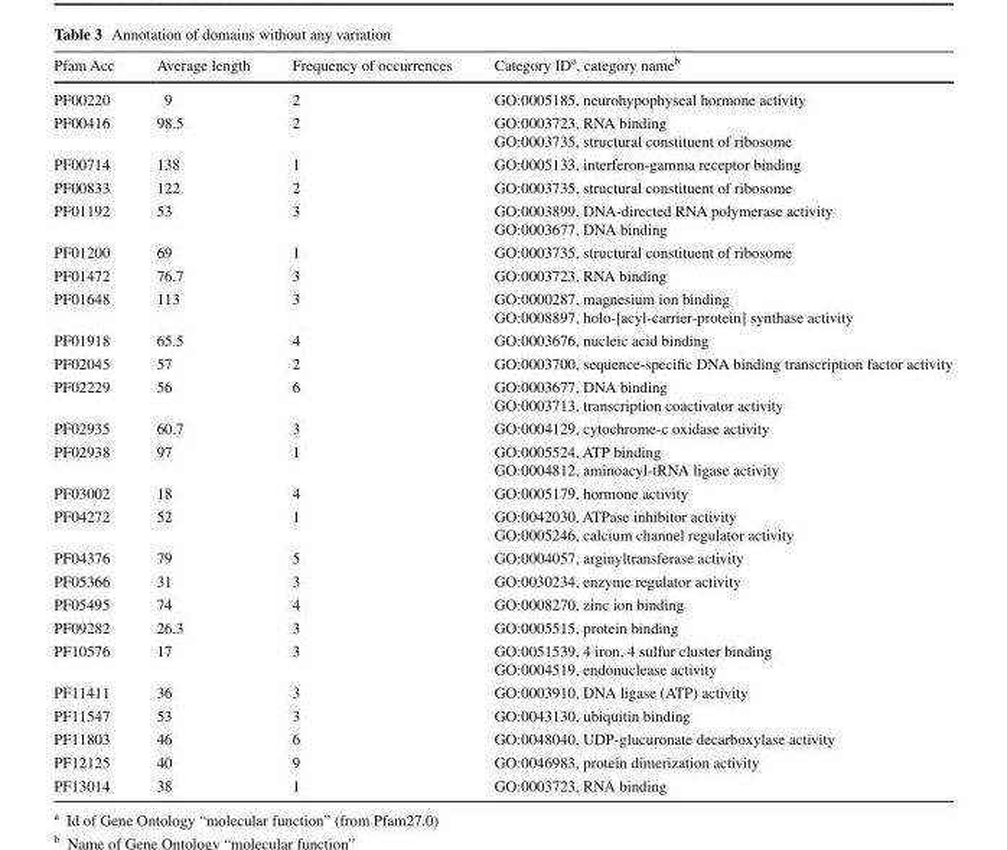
<table><thead><tr><td>Pfam Acc</td><td>Average length</td><td>Frequency of occurrences</td><td>Category ID<sup>a</sup>, category name<sup>b</sup></td></tr></thead><tbody><tr><td>PF00220</td><td>9</td><td>2</td><td>GO:0005185, neurohypophyseal hormone activity</td></tr><tr><td>PF00416</td><td>98.5</td><td>2</td><td>GO:0003723, RNA binding GO:0003735, structural constituent of ribosome</td></tr><tr><td>PF00714</td><td>138</td><td>1</td><td>GO:0005133, interferon-gamma receptor binding</td></tr><tr><td>PF00833</td><td>122</td><td>2</td><td>GO:0003735, structural constituent of ribosome</td></tr><tr><td>PF01192</td><td>53</td><td>3</td><td>GO:0003899, DNA-directed RNA polymerase activity GO:0003677, DNA binding</td></tr><tr><td>PF01200</td><td>69</td><td>1</td><td>GO:0003735, structural constituent of ribosome</td></tr><tr><td>PF01472</td><td>76.7</td><td>3</td><td>GO:0003723, RNA binding</td></tr><tr><td>PF01648</td><td>113</td><td>3</td><td>GO:0000287, magnesium ion binding GO:0008897, holo-[acyl-carrier-protein] synthase activity</td></tr><tr><td>PF01918</td><td>65.5</td><td>4</td><td>GO:0003676, nucleic acid binding</td></tr><tr><td>PF02045</td><td>57</td><td>2</td><td>GO:0003700, sequence-specific DNA binding transcription factor activity</td></tr><tr><td>PF02229</td><td>56</td><td>6</td><td>GO:0003677, DNA binding GO:0003713, transcription coactivator activity</td></tr><tr><td>PF02935</td><td>60.7</td><td>3</td><td>GO:0004129, cytochrome-c oxidase activity</td></tr><tr><td>PF02938</td><td>97</td><td>1</td><td>GO:0005524, ATP binding GO:0004812, aminoacyl-tRNA ligase activity</td></tr><tr><td>PF03002</td><td>18</td><td>4</td><td>GO:0005179, hormone activity</td></tr><tr><td>PF04272</td><td>52</td><td>1</td><td>GO:0042030, ATPase inhibitor activity GO:0005246, calcium channel regulator activity</td></tr><tr><td>PF04376</td><td>79</td><td>5</td><td>GO:0004057, arginyltransferase activity</td></tr><tr><td>PF05366</td><td>31</td><td>3</td><td>GO:0030234, enzyme regulator activity</td></tr><tr><td>PF05495</td><td>74</td><td>4</td><td>GO:0008270, zinc ion binding</td></tr><tr><td>PF09282</td><td>26.3</td><td>3</td><td>GO:0005515, protein binding</td></tr><tr><td>PF10576</td><td>17</td><td>3</td><td>GO:0051539, 4 iron, 4 sulfur cluster binding GO:0004519, endonuclease activity</td></tr><tr><td>PF11411</td><td>36</td><td>3</td><td>GO:0003910, DNA ligase (ATP) activity</td></tr><tr><td>PF11547</td><td>53</td><td>3</td><td>GO:0043130, ubiquitin binding</td></tr><tr><td>PF11803</td><td>46</td><td>6</td><td>GO:0048040, UDP-glucuronate decarboxylase activity</td></tr><tr><td>PF12125</td><td>40</td><td>9</td><td>GO:0046983, protein dimerization activity</td></tr><tr><td>PF13014</td><td>38</td><td>1</td><td>GO:0003723, RNA binding</td></tr></tbody></table>